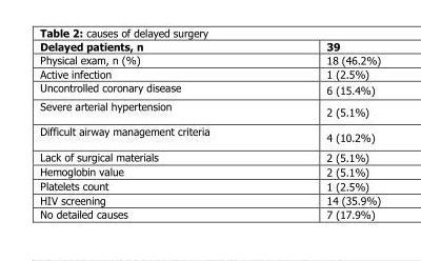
<table><thead><tr><td>Delayed patients, n</td><td>39</td></tr></thead><tbody><tr><td>Physical exam, n (%)</td><td>18 (46.2%)</td></tr><tr><td>Active infection</td><td>1 (2.5%)</td></tr><tr><td>Uncontrolled coronary disease</td><td>6 (15.4%)</td></tr><tr><td>Severe arterial hypertension</td><td>2 (5.1%)</td></tr><tr><td>Difficult airway management criteria</td><td>4 (10.2%)</td></tr><tr><td>Lack of surgical materials</td><td>2 (5.1%)</td></tr><tr><td>Hemoglobin value</td><td>2 (5.1%)</td></tr><tr><td>Platelets count</td><td>1 (2.5%)</td></tr><tr><td>HIV screening</td><td>14 (35.9%)</td></tr><tr><td>No detailed causes</td><td>7 (17.9%)</td></tr></tbody></table>